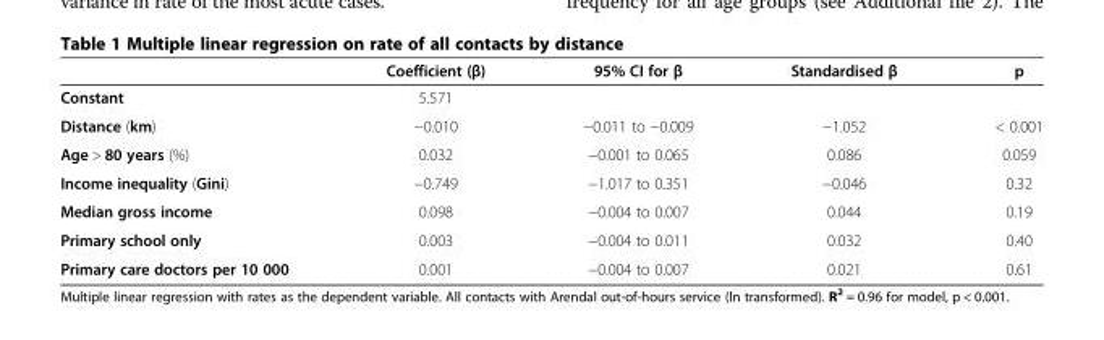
<table><thead><tr><td></td><td>Coefficient (β)</td><td>95% CI for β</td><td>Standardised β</td><td>p</td></tr></thead><tbody><tr><td>Constant</td><td>5.571</td><td></td><td></td><td></td></tr><tr><td>Distance (km)</td><td>−0.010</td><td>−0.011 to −0.009</td><td>−1.052</td><td>&lt; 0.001</td></tr><tr><td>Age &gt; 80 years (%)</td><td>0.032</td><td>−0.001 to 0.065</td><td>0.086</td><td>0.059</td></tr><tr><td>Income inequality (Gini)</td><td>−0.749</td><td>−1.017 to 0.351</td><td>−0.046</td><td>0.32</td></tr><tr><td>Median gross income</td><td>0.098</td><td>−0.004 to 0.007</td><td>0.044</td><td>0.19</td></tr><tr><td>Primary school only</td><td>0.003</td><td>−0.004 to 0.011</td><td>0.032</td><td>0.40</td></tr><tr><td>Primary care doctors per 10 000</td><td>0.001</td><td>−0.004 to 0.007</td><td>0.021</td><td>0.61</td></tr></tbody></table>